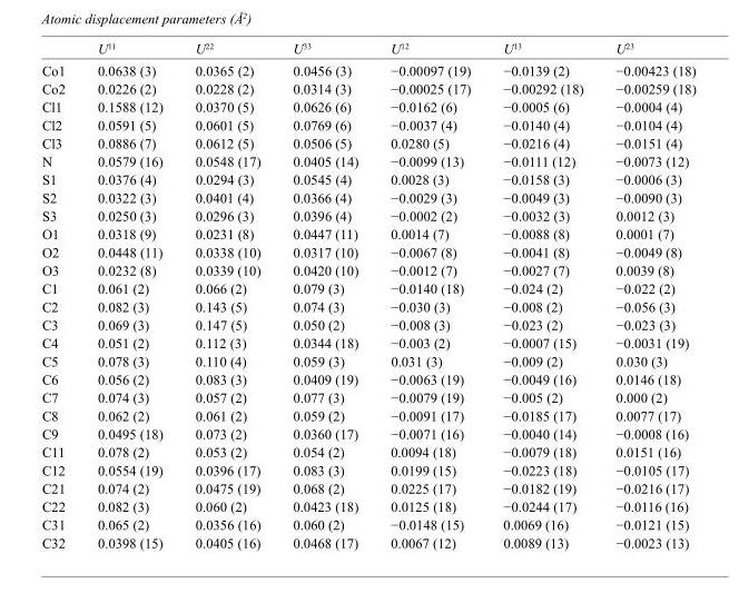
<table><thead><tr><td></td><td>U<sup>11</sup></td><td>U<sup>22</sup></td><td>U<sup>33</sup></td><td>U<sup>12</sup></td><td>U<sup>13</sup></td><td>U<sup>23</sup></td></tr></thead><tbody><tr><td>Co1</td><td>0.0638 (3)</td><td>0.0365 (2)</td><td>0.0456 (3)</td><td>−0.00097 (19)</td><td>−0.0139 (2)</td><td>−0.00423 (18)</td></tr><tr><td>Co2</td><td>0.0226 (2)</td><td>0.0228 (2)</td><td>0.0314 (3)</td><td>−0.00025 (17)</td><td>−0.00292 (18)</td><td>−0.00259 (18)</td></tr><tr><td>Cl1</td><td>0.1588 (12)</td><td>0.0370 (5)</td><td>0.0626 (6)</td><td>−0.0162 (6)</td><td>−0.0005 (6)</td><td>−0.0004 (4)</td></tr><tr><td>Cl2</td><td>0.0591 (5)</td><td>0.0601 (5)</td><td>0.0769 (6)</td><td>−0.0037 (4)</td><td>−0.0140 (4)</td><td>−0.0104 (4)</td></tr><tr><td>Cl3</td><td>0.0886 (7)</td><td>0.0612 (5)</td><td>0.0506 (5)</td><td>0.0280 (5)</td><td>−0.0216 (4)</td><td>−0.0151 (4)</td></tr><tr><td>N</td><td>0.0579 (16)</td><td>0.0548 (17)</td><td>0.0405 (14)</td><td>−0.0099 (13)</td><td>−0.0111 (12)</td><td>−0.0073 (12)</td></tr><tr><td>S1</td><td>0.0376 (4)</td><td>0.0294 (3)</td><td>0.0545 (4)</td><td>0.0028 (3)</td><td>−0.0158 (3)</td><td>−0.0006 (3)</td></tr><tr><td>S2</td><td>0.0322 (3)</td><td>0.0401 (4)</td><td>0.0366 (4)</td><td>−0.0029 (3)</td><td>−0.0049 (3)</td><td>−0.0090 (3)</td></tr><tr><td>S3</td><td>0.0250 (3)</td><td>0.0296 (3)</td><td>0.0396 (4)</td><td>−0.0002 (2)</td><td>−0.0032 (3)</td><td>0.0012 (3)</td></tr><tr><td>O1</td><td>0.0318 (9)</td><td>0.0231 (8)</td><td>0.0447 (11)</td><td>0.0014 (7)</td><td>−0.0088 (8)</td><td>0.0001 (7)</td></tr><tr><td>O2</td><td>0.0448 (11)</td><td>0.0338 (10)</td><td>0.0317 (10)</td><td>−0.0067 (8)</td><td>−0.0041 (8)</td><td>−0.0049 (8)</td></tr><tr><td>O3</td><td>0.0232 (8)</td><td>0.0339 (10)</td><td>0.0420 (10)</td><td>−0.0012 (7)</td><td>−0.0027 (7)</td><td>0.0039 (8)</td></tr><tr><td>C1</td><td>0.061 (2)</td><td>0.066 (2)</td><td>0.079 (3)</td><td>−0.0140 (18)</td><td>−0.024 (2)</td><td>−0.022 (2)</td></tr><tr><td>C2</td><td>0.082 (3)</td><td>0.143 (5)</td><td>0.074 (3)</td><td>−0.030 (3)</td><td>−0.008 (2)</td><td>−0.056 (3)</td></tr><tr><td>C3</td><td>0.069 (3)</td><td>0.147 (5)</td><td>0.050 (2)</td><td>−0.008 (3)</td><td>−0.023 (2)</td><td>−0.023 (3)</td></tr><tr><td>C4</td><td>0.051 (2)</td><td>0.112 (3)</td><td>0.0344 (18)</td><td>−0.003 (2)</td><td>−0.0007 (15)</td><td>−0.0031 (19)</td></tr><tr><td>C5</td><td>0.078 (3)</td><td>0.110 (4)</td><td>0.059 (3)</td><td>0.031 (3)</td><td>−0.009 (2)</td><td>0.030 (3)</td></tr><tr><td>C6</td><td>0.056 (2)</td><td>0.083 (3)</td><td>0.0409 (19)</td><td>−0.0063 (19)</td><td>−0.0049 (16)</td><td>0.0146 (18)</td></tr><tr><td>C7</td><td>0.074 (3)</td><td>0.057 (2)</td><td>0.077 (3)</td><td>−0.0079 (19)</td><td>−0.005 (2)</td><td>0.000 (2)</td></tr><tr><td>C8</td><td>0.062 (2)</td><td>0.061 (2)</td><td>0.059 (2)</td><td>−0.0091 (17)</td><td>−0.0185 (17)</td><td>0.0077 (17)</td></tr><tr><td>C9</td><td>0.0495 (18)</td><td>0.073 (2)</td><td>0.0360 (17)</td><td>−0.0071 (16)</td><td>−0.0040 (14)</td><td>−0.0008 (16)</td></tr><tr><td>C11</td><td>0.078 (2)</td><td>0.053 (2)</td><td>0.054 (2)</td><td>0.0094 (18)</td><td>−0.0079 (18)</td><td>0.0151 (16)</td></tr><tr><td>C12</td><td>0.0554 (19)</td><td>0.0396 (17)</td><td>0.083 (3)</td><td>0.0199 (15)</td><td>−0.0223 (18)</td><td>−0.0105 (17)</td></tr><tr><td>C21</td><td>0.074 (2)</td><td>0.0475 (19)</td><td>0.068 (2)</td><td>0.0225 (17)</td><td>−0.0182 (19)</td><td>−0.0216 (17)</td></tr><tr><td>C22</td><td>0.082 (3)</td><td>0.060 (2)</td><td>0.0423 (18)</td><td>0.0125 (18)</td><td>−0.0244 (17)</td><td>−0.0116 (16)</td></tr><tr><td>C31</td><td>0.065 (2)</td><td>0.0356 (16)</td><td>0.060 (2)</td><td>−0.0148 (15)</td><td>0.0069 (16)</td><td>−0.0121 (15)</td></tr><tr><td>C32</td><td>0.0398 (15)</td><td>0.0405 (16)</td><td>0.0468 (17)</td><td>0.0067 (12)</td><td>0.0089 (13)</td><td>−0.0023 (13)</td></tr></tbody></table>